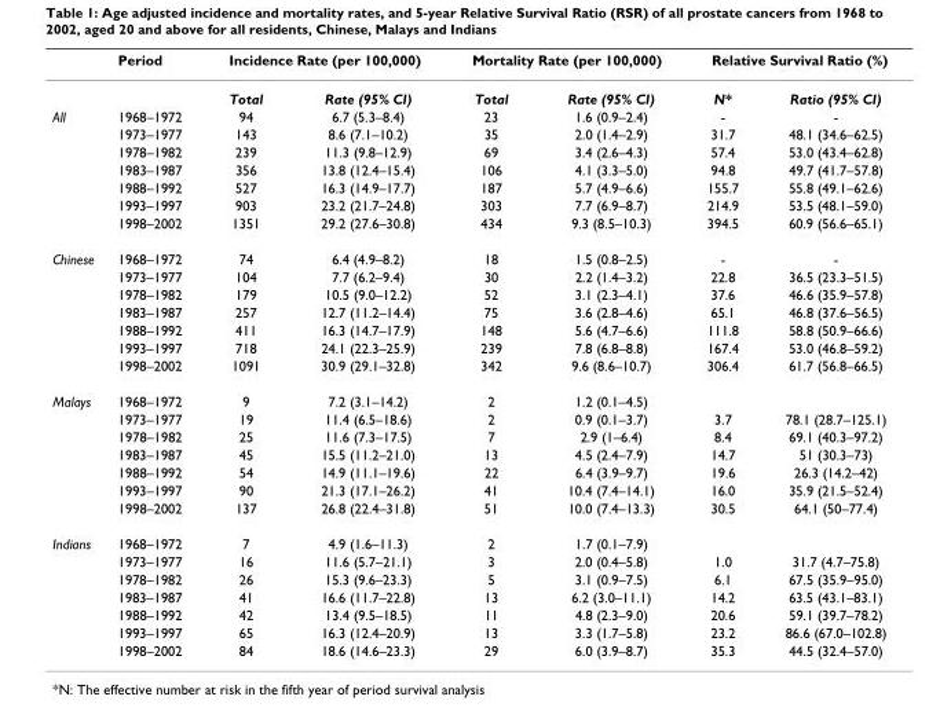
<table><thead><tr><td rowspan="2"></td><td rowspan="2">Period</td><td colspan="2">Incidence Rate (per 100,000)</td><td colspan="2">Mortality Rate (per 100,000)</td><td colspan="2">Relative Survival Ratio (%)</td></tr><tr><td>Total</td><td>Rate (95% CI)</td><td>Total</td><td>Rate (95% CI)</td><td>N*</td><td>Ratio (95% CI)</td></tr></thead><tbody><tr><td rowspan="7">All</td><td>1968–1972</td><td>94</td><td>6.7 (5.3–8.4)</td><td>23</td><td>1.6 (0.9–2.4)</td><td>-</td><td>-</td></tr><tr><td>1973–1977</td><td>143</td><td>8.6 (7.1–10.2)</td><td>35</td><td>2.0 (1.4–2.9)</td><td>31.7</td><td>48.1 (34.6–62.5)</td></tr><tr><td>1978–1982</td><td>239</td><td>11.3 (9.8–12.9)</td><td>69</td><td>3.4 (2.6–4.3)</td><td>57.4</td><td>53.0 (43.4–62.8)</td></tr><tr><td>1983–1987</td><td>356</td><td>13.8 (12.4–15.4)</td><td>106</td><td>4.1 (3.3–5.0)</td><td>94.8</td><td>49.7 (41.7–57.8)</td></tr><tr><td>1988–1992</td><td>527</td><td>16.3 (14.9–17.7)</td><td>187</td><td>5.7 (4.9–6.6)</td><td>155.7</td><td>55.8 (49.1–62.6)</td></tr><tr><td>1993–1997</td><td>903</td><td>23.2 (21.7–24.8)</td><td>303</td><td>7.7 (6.9–8.7)</td><td>214.9</td><td>53.5 (48.1–59.0)</td></tr><tr><td>1998–2002</td><td>1351</td><td>29.2 (27.6–30.8)</td><td>434</td><td>9.3 (8.5–10.3)</td><td>394.5</td><td>60.9 (56.6–65.1)</td></tr><tr><td rowspan="7">Chinese</td><td>1968–1972</td><td>74</td><td>6.4 (4.9–8.2)</td><td>18</td><td>1.5 (0.8–2.5)</td><td>-</td><td>-</td></tr><tr><td>1973–1977</td><td>104</td><td>7.7 (6.2–9.4)</td><td>30</td><td>2.2 (1.4–3.2)</td><td>22.8</td><td>36.5 (23.3–51.5)</td></tr><tr><td>1978–1982</td><td>179</td><td>10.5 (9.0–12.2)</td><td>52</td><td>3.1 (2.3–4.1)</td><td>37.6</td><td>46.6 (35.9–57.8)</td></tr><tr><td>1983–1987</td><td>257</td><td>12.7 (11.2–14.4)</td><td>75</td><td>3.6 (2.8–4.6)</td><td>65.1</td><td>46.8 (37.6–56.5)</td></tr><tr><td>1988–1992</td><td>411</td><td>16.3 (14.7–17.9)</td><td>148</td><td>5.6 (4.7–6.6)</td><td>111.8</td><td>58.8 (50.9–66.6)</td></tr><tr><td>1993–1997</td><td>718</td><td>24.1 (22.3–25.9)</td><td>239</td><td>7.8 (6.8–8.8)</td><td>167.4</td><td>53.0 (46.8–59.2)</td></tr><tr><td>1998–2002</td><td>1091</td><td>30.9 (29.1–32.8)</td><td>342</td><td>9.6 (8.6–10.7)</td><td>306.4</td><td>61.7 (56.8–66.5)</td></tr><tr><td rowspan="7">Malays</td><td>1968–1972</td><td>9</td><td>7.2 (3.1–14.2)</td><td>2</td><td>1.2 (0.1–4.5)</td><td></td><td></td></tr><tr><td>1973–1977</td><td>19</td><td>11.4 (6.5–18.6)</td><td>2</td><td>0.9 (0.1–3.7)</td><td>3.7</td><td>78.1 (28.7–125.1)</td></tr><tr><td>1978–1982</td><td>25</td><td>11.6 (7.3–17.5)</td><td>7</td><td>2.9 (1–6.4)</td><td>8.4</td><td>69.1 (40.3–97.2)</td></tr><tr><td>1983–1987</td><td>45</td><td>15.5 (11.2–21.0)</td><td>13</td><td>4.5 (2.4–7.9)</td><td>14.7</td><td>51 (30.3–73)</td></tr><tr><td>1988–1992</td><td>54</td><td>14.9 (11.1–19.6)</td><td>22</td><td>6.4 (3.9–9.7)</td><td>19.6</td><td>26.3 (14.2–42)</td></tr><tr><td>1993–1997</td><td>90</td><td>21.3 (17.1–26.2)</td><td>41</td><td>10.4 (7.4–14.1)</td><td>16.0</td><td>35.9 (21.5–52.4)</td></tr><tr><td>1998–2002</td><td>137</td><td>26.8 (22.4–31.8)</td><td>51</td><td>10.0 (7.4–13.3)</td><td>30.5</td><td>64.1 (50–77.4)</td></tr><tr><td rowspan="7">Indians</td><td>1968–1972</td><td>7</td><td>4.9 (1.6–11.3)</td><td>2</td><td>1.7 (0.1–7.9)</td><td></td><td></td></tr><tr><td>1973–1977</td><td>16</td><td>11.6 (5.7–21.1)</td><td>3</td><td>2.0 (0.4–5.8)</td><td>1.0</td><td>31.7 (4.7–75.8)</td></tr><tr><td>1978–1982</td><td>26</td><td>15.3 (9.6–23.3)</td><td>5</td><td>3.1 (0.9–7.5)</td><td>6.1</td><td>67.5 (35.9–95.0)</td></tr><tr><td>1983–1987</td><td>41</td><td>16.6 (11.7–22.8)</td><td>13</td><td>6.2 (3.0–11.1)</td><td>14.2</td><td>63.5 (43.1–83.1)</td></tr><tr><td>1988–1992</td><td>42</td><td>13.4 (9.5–18.5)</td><td>11</td><td>4.8 (2.3–9.0)</td><td>20.6</td><td>59.1 (39.7–78.2)</td></tr><tr><td>1993–1997</td><td>65</td><td>16.3 (12.4–20.9)</td><td>13</td><td>3.3 (1.7–5.8)</td><td>23.2</td><td>86.6 (67.0–102.8)</td></tr><tr><td>1998–2002</td><td>84</td><td>18.6 (14.6–23.3)</td><td>29</td><td>6.0 (3.9–8.7)</td><td>35.3</td><td>44.5 (32.4–57.0)</td></tr></tbody></table>